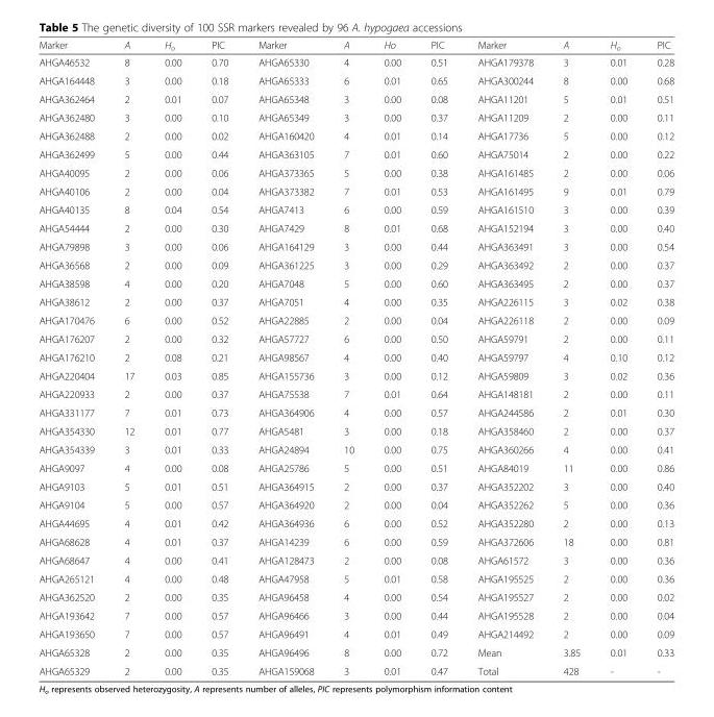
<table><thead><tr><td>Marker</td><td>A</td><td>H<sub>o</sub></td><td>PIC</td><td>Marker</td><td>A</td><td>Ho</td><td>PIC</td><td>Marker</td><td>A</td><td>H<sub>o</sub></td><td>PIC</td></tr></thead><tbody><tr><td>AHGA46532</td><td>8</td><td>0.00</td><td>0.70</td><td>AHGA65330</td><td>4</td><td>0.00</td><td>0.51</td><td>AHGA179378</td><td>3</td><td>0.01</td><td>0.28</td></tr><tr><td>AHGA164448</td><td>3</td><td>0.00</td><td>0.18</td><td>AHGA65333</td><td>6</td><td>0.01</td><td>0.65</td><td>AHGA300244</td><td>8</td><td>0.00</td><td>0.68</td></tr><tr><td>AHGA362464</td><td>2</td><td>0.01</td><td>0.07</td><td>AHGA65348</td><td>3</td><td>0.00</td><td>0.08</td><td>AHGA11201</td><td>5</td><td>0.01</td><td>0.51</td></tr><tr><td>AHGA362480</td><td>3</td><td>0.00</td><td>0.10</td><td>AHGA65349</td><td>3</td><td>0.00</td><td>0.37</td><td>AHGA11209</td><td>2</td><td>0.00</td><td>0.11</td></tr><tr><td>AHGA362488</td><td>2</td><td>0.00</td><td>0.02</td><td>AHGA160420</td><td>4</td><td>0.01</td><td>0.14</td><td>AHGA17736</td><td>5</td><td>0.00</td><td>0.12</td></tr><tr><td>AHGA362499</td><td>5</td><td>0.00</td><td>0.44</td><td>AHGA363105</td><td>7</td><td>0.01</td><td>0.60</td><td>AHGA75014</td><td>2</td><td>0.00</td><td>0.22</td></tr><tr><td>AHGA40095</td><td>2</td><td>0.00</td><td>0.06</td><td>AHGA373365</td><td>5</td><td>0.00</td><td>0.38</td><td>AHGA161485</td><td>2</td><td>0.00</td><td>0.06</td></tr><tr><td>AHGA40106</td><td>2</td><td>0.00</td><td>0.04</td><td>AHGA373382</td><td>7</td><td>0.01</td><td>0.53</td><td>AHGA161495</td><td>9</td><td>0.01</td><td>0.79</td></tr><tr><td>AHGA40135</td><td>8</td><td>0.04</td><td>0.54</td><td>AHGA7413</td><td>6</td><td>0.00</td><td>0.59</td><td>AHGA161510</td><td>3</td><td>0.00</td><td>0.39</td></tr><tr><td>AHGA54444</td><td>2</td><td>0.00</td><td>0.30</td><td>AHGA7429</td><td>8</td><td>0.01</td><td>0.68</td><td>AHGA152194</td><td>3</td><td>0.00</td><td>0.40</td></tr><tr><td>AHGA79898</td><td>3</td><td>0.00</td><td>0.06</td><td>AHGA164129</td><td>3</td><td>0.00</td><td>0.44</td><td>AHGA363491</td><td>3</td><td>0.00</td><td>0.54</td></tr><tr><td>AHGA36568</td><td>2</td><td>0.00</td><td>0.09</td><td>AHGA361225</td><td>3</td><td>0.00</td><td>0.29</td><td>AHGA363492</td><td>2</td><td>0.00</td><td>0.37</td></tr><tr><td>AHGA38598</td><td>4</td><td>0.00</td><td>0.20</td><td>AHGA7048</td><td>5</td><td>0.00</td><td>0.60</td><td>AHGA363495</td><td>2</td><td>0.00</td><td>0.37</td></tr><tr><td>AHGA38612</td><td>2</td><td>0.00</td><td>0.37</td><td>AHGA7051</td><td>4</td><td>0.00</td><td>0.35</td><td>AHGA226115</td><td>3</td><td>0.02</td><td>0.38</td></tr><tr><td>AHGA170476</td><td>6</td><td>0.00</td><td>0.52</td><td>AHGA22885</td><td>2</td><td>0.00</td><td>0.04</td><td>AHGA226118</td><td>2</td><td>0.00</td><td>0.09</td></tr><tr><td>AHGA176207</td><td>2</td><td>0.00</td><td>0.32</td><td>AHGA57727</td><td>6</td><td>0.00</td><td>0.50</td><td>AHGA59791</td><td>2</td><td>0.00</td><td>0.11</td></tr><tr><td>AHGA176210</td><td>2</td><td>0.08</td><td>0.21</td><td>AHGA98567</td><td>4</td><td>0.00</td><td>0.40</td><td>AHGA59797</td><td>4</td><td>0.10</td><td>0.12</td></tr><tr><td>AHGA220404</td><td>17</td><td>0.03</td><td>0.85</td><td>AHGA155736</td><td>3</td><td>0.00</td><td>0.12</td><td>AHGA59809</td><td>3</td><td>0.02</td><td>0.36</td></tr><tr><td>AHGA220933</td><td>2</td><td>0.00</td><td>0.37</td><td>AHGA75538</td><td>7</td><td>0.01</td><td>0.64</td><td>AHGA148181</td><td>2</td><td>0.00</td><td>0.11</td></tr><tr><td>AHGA331177</td><td>7</td><td>0.01</td><td>0.73</td><td>AHGA364906</td><td>4</td><td>0.00</td><td>0.57</td><td>AHGA244586</td><td>2</td><td>0.01</td><td>0.30</td></tr><tr><td>AHGA354330</td><td>12</td><td>0.01</td><td>0.77</td><td>AHGA5481</td><td>3</td><td>0.00</td><td>0.18</td><td>AHGA358460</td><td>2</td><td>0.00</td><td>0.37</td></tr><tr><td>AHGA354339</td><td>3</td><td>0.01</td><td>0.33</td><td>AHGA24894</td><td>10</td><td>0.00</td><td>0.75</td><td>AHGA360266</td><td>4</td><td>0.00</td><td>0.41</td></tr><tr><td>AHGA9097</td><td>4</td><td>0.00</td><td>0.08</td><td>AHGA25786</td><td>5</td><td>0.00</td><td>0.51</td><td>AHGA84019</td><td>11</td><td>0.00</td><td>0.86</td></tr><tr><td>AHGA9103</td><td>5</td><td>0.01</td><td>0.51</td><td>AHGA364915</td><td>2</td><td>0.00</td><td>0.37</td><td>AHGA352202</td><td>3</td><td>0.00</td><td>0.40</td></tr><tr><td>AHGA9104</td><td>5</td><td>0.00</td><td>0.57</td><td>AHGA364920</td><td>2</td><td>0.00</td><td>0.04</td><td>AHGA352262</td><td>5</td><td>0.00</td><td>0.36</td></tr><tr><td>AHGA44695</td><td>4</td><td>0.01</td><td>0.42</td><td>AHGA364936</td><td>6</td><td>0.00</td><td>0.52</td><td>AHGA352280</td><td>2</td><td>0.00</td><td>0.13</td></tr><tr><td>AHGA68628</td><td>4</td><td>0.01</td><td>0.37</td><td>AHGA14239</td><td>6</td><td>0.00</td><td>0.59</td><td>AHGA372606</td><td>18</td><td>0.00</td><td>0.81</td></tr><tr><td>AHGA68647</td><td>4</td><td>0.00</td><td>0.41</td><td>AHGA128473</td><td>2</td><td>0.00</td><td>0.08</td><td>AHGA61572</td><td>3</td><td>0.00</td><td>0.36</td></tr><tr><td>AHGA265121</td><td>4</td><td>0.00</td><td>0.48</td><td>AHGA47958</td><td>5</td><td>0.01</td><td>0.58</td><td>AHGA195525</td><td>2</td><td>0.00</td><td>0.36</td></tr><tr><td>AHGA362520</td><td>2</td><td>0.00</td><td>0.35</td><td>AHGA96458</td><td>4</td><td>0.00</td><td>0.54</td><td>AHGA195527</td><td>2</td><td>0.00</td><td>0.02</td></tr><tr><td>AHGA193642</td><td>7</td><td>0.00</td><td>0.57</td><td>AHGA96466</td><td>3</td><td>0.00</td><td>0.44</td><td>AHGA195528</td><td>2</td><td>0.00</td><td>0.04</td></tr><tr><td>AHGA193650</td><td>7</td><td>0.00</td><td>0.57</td><td>AHGA96491</td><td>4</td><td>0.01</td><td>0.49</td><td>AHGA214492</td><td>2</td><td>0.00</td><td>0.09</td></tr><tr><td>AHGA65328</td><td>2</td><td>0.00</td><td>0.35</td><td>AHGA96496</td><td>8</td><td>0.00</td><td>0.72</td><td>Mean</td><td>3.85</td><td>0.01</td><td>0.33</td></tr><tr><td>AHGA65329</td><td>2</td><td>0.00</td><td>0.35</td><td>AHGA159068</td><td>3</td><td>0.01</td><td>0.47</td><td>Total</td><td>428</td><td>-</td><td>-</td></tr></tbody></table>